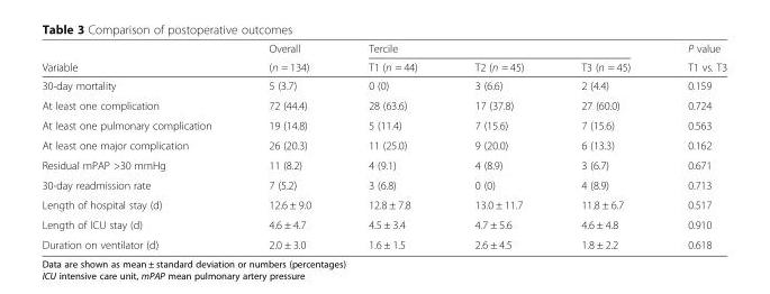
<table><thead><tr><td rowspan="2">Variable</td><td rowspan="2">Overall (n = 134)</td><td colspan="3">Tercile</td><td rowspan="2">P value T1 vs. T3</td></tr><tr><td>T1 (n = 44)</td><td>T2 (n = 45)</td><td>T3 (n = 45)</td></tr></thead><tbody><tr><td>30-day mortality</td><td>5 (3.7)</td><td>0 (0)</td><td>3 (6.6)</td><td>2 (4.4)</td><td>0.159</td></tr><tr><td>At least one complication</td><td>72 (44.4)</td><td>28 (63.6)</td><td>17 (37.8)</td><td>27 (60.0)</td><td>0.724</td></tr><tr><td>At least one pulmonary complication</td><td>19 (14.8)</td><td>5 (11.4)</td><td>7 (15.6)</td><td>7 (15.6)</td><td>0.563</td></tr><tr><td>At least one major complication</td><td>26 (20.3)</td><td>11 (25.0)</td><td>9 (20.0)</td><td>6 (13.3)</td><td>0.162</td></tr><tr><td>Residual mPAP &gt;30 mmHg</td><td>11 (8.2)</td><td>4 (9.1)</td><td>4 (8.9)</td><td>3 (6.7)</td><td>0.671</td></tr><tr><td>30-day readmission rate</td><td>7 (5.2)</td><td>3 (6.8)</td><td>0 (0)</td><td>4 (8.9)</td><td>0.713</td></tr><tr><td>Length of hospital stay (d)</td><td>12.6 ± 9.0</td><td>12.8 ± 7.8</td><td>13.0 ± 11.7</td><td>11.8 ± 6.7</td><td>0.517</td></tr><tr><td>Length of ICU stay (d)</td><td>4.6 ± 4.7</td><td>4.5 ± 3.4</td><td>4.7 ± 5.6</td><td>4.6 ± 4.8</td><td>0.910</td></tr><tr><td>Duration on ventilator (d)</td><td>2.0 ± 3.0</td><td>1.6 ± 1.5</td><td>2.6 ± 4.5</td><td>1.8 ± 2.2</td><td>0.618</td></tr></tbody></table>